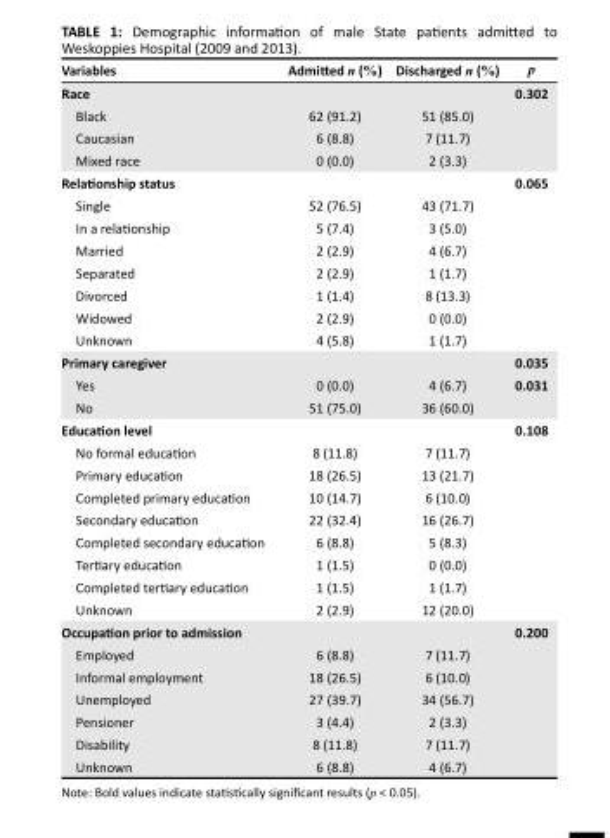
<table><thead><tr><td>Variables</td><td>Admitted n (%)</td><td>Discharged n (%)</td><td>p</td></tr></thead><tbody><tr><td>Race</td><td></td><td></td><td>0.302</td></tr><tr><td>Black</td><td>62 (91.2)</td><td>51 (85.0)</td><td></td></tr><tr><td>Caucasian</td><td>6 (8.8)</td><td>7 (11.7)</td><td></td></tr><tr><td>Mixed race</td><td>0 (0.0)</td><td>2 (3.3)</td><td></td></tr><tr><td>Relationship status</td><td></td><td></td><td>0.065</td></tr><tr><td>Single</td><td>52 (76.5)</td><td>43 (71.7)</td><td></td></tr><tr><td>In a relationship</td><td>5 (7.4)</td><td>3 (5.0)</td><td></td></tr><tr><td>Married</td><td>2 (2.9)</td><td>4 (6.7)</td><td></td></tr><tr><td>Separated</td><td>2 (2.9)</td><td>1 (1.7)</td><td></td></tr><tr><td>Divorced</td><td>1 (1.4)</td><td>8 (13.3)</td><td></td></tr><tr><td>Widowed</td><td>2 (2.9)</td><td>0 (0.0)</td><td></td></tr><tr><td>Unknown</td><td>4 (5.8)</td><td>1 (1.7)</td><td></td></tr><tr><td>Primary caregiver</td><td></td><td></td><td>0.035</td></tr><tr><td>Yes</td><td>0 (0.0)</td><td>4 (6.7)</td><td>0.031</td></tr><tr><td>No</td><td>51 (75.0)</td><td>36 (60.0)</td><td></td></tr><tr><td>Education level</td><td></td><td></td><td>0.108</td></tr><tr><td>No formal education</td><td>8 (11.8)</td><td>7 (11.7)</td><td></td></tr><tr><td>Primary education</td><td>18 (26.5)</td><td>13 (21.7)</td><td></td></tr><tr><td>Completed primary education</td><td>10 (14.7)</td><td>6 (10.0)</td><td></td></tr><tr><td>Secondary education</td><td>22 (32.4)</td><td>16 (26.7)</td><td></td></tr><tr><td>Completed secondary education</td><td>6 (8.8)</td><td>5 (8.3)</td><td></td></tr><tr><td>Tertiary education</td><td>1 (1.5)</td><td>0 (0.0)</td><td></td></tr><tr><td>Completed tertiary education</td><td>1 (1.5)</td><td>1 (1.7)</td><td></td></tr><tr><td>Unknown</td><td>2 (2.9)</td><td>12 (20.0)</td><td></td></tr><tr><td>Occupation prior to admission</td><td></td><td></td><td>0.200</td></tr><tr><td>Employed</td><td>6 (8.8)</td><td>7 (11.7)</td><td></td></tr><tr><td>Informal employment</td><td>18 (26.5)</td><td>6 (10.0)</td><td></td></tr><tr><td>Unemployed</td><td>27 (39.7)</td><td>34 (56.7)</td><td></td></tr><tr><td>Pensioner</td><td>3 (4.4)</td><td>2 (3.3)</td><td></td></tr><tr><td>Disability</td><td>8 (11.8)</td><td>7 (11.7)</td><td></td></tr><tr><td>Unknown</td><td>6 (8.8)</td><td>4 (6.7)</td><td></td></tr></tbody></table>